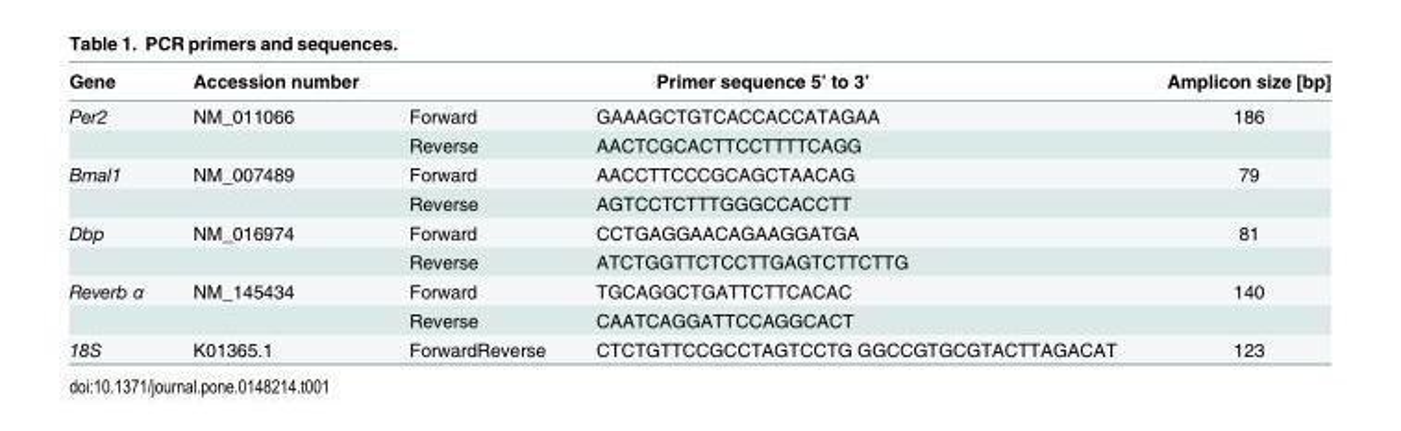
<table><thead><tr><td rowspan="2">Gene Per2</td><td rowspan="2">Accession number NM_011066</td><td colspan="2">Primer sequence 5’ to 3’</td><td rowspan="2">Amplicon size [bp] 186</td></tr><tr><td>Forward</td><td>GAAAGCTGTCACCACCATAGAA</td></tr></thead><tbody><tr><td></td><td></td><td>Reverse</td><td>AACTCGCACTTCCTTTTCAGG</td><td></td></tr><tr><td rowspan="2">Bmal1</td><td>NM_007489</td><td>Forward</td><td>AACCTTCCCGCAGCTAACAG</td><td>79</td></tr><tr><td></td><td>Reverse</td><td>AGTCCTCTTTGGGCCACCTT</td><td></td></tr><tr><td rowspan="2">Dbp</td><td>NM_016974</td><td>Forward</td><td>CCTGAGGAACAGAAGGATGA</td><td>81</td></tr><tr><td></td><td>Reverse</td><td>ATCTGGTTCTCCTTGAGTCTTCTTG</td><td></td></tr><tr><td rowspan="2">Reverb α</td><td>NM_145434</td><td>Forward</td><td>TGCAGGCTGATTCTTCACAC</td><td>140</td></tr><tr><td></td><td>Reverse</td><td>CAATCAGGATTCCAGGCACT</td><td></td></tr><tr><td>18S</td><td>K01365.1</td><td>ForwardReverse</td><td>CTCTGTTCCGCCTAGTCCTG GGCCGTGCGTACTTAGACAT</td><td>123</td></tr></tbody></table>